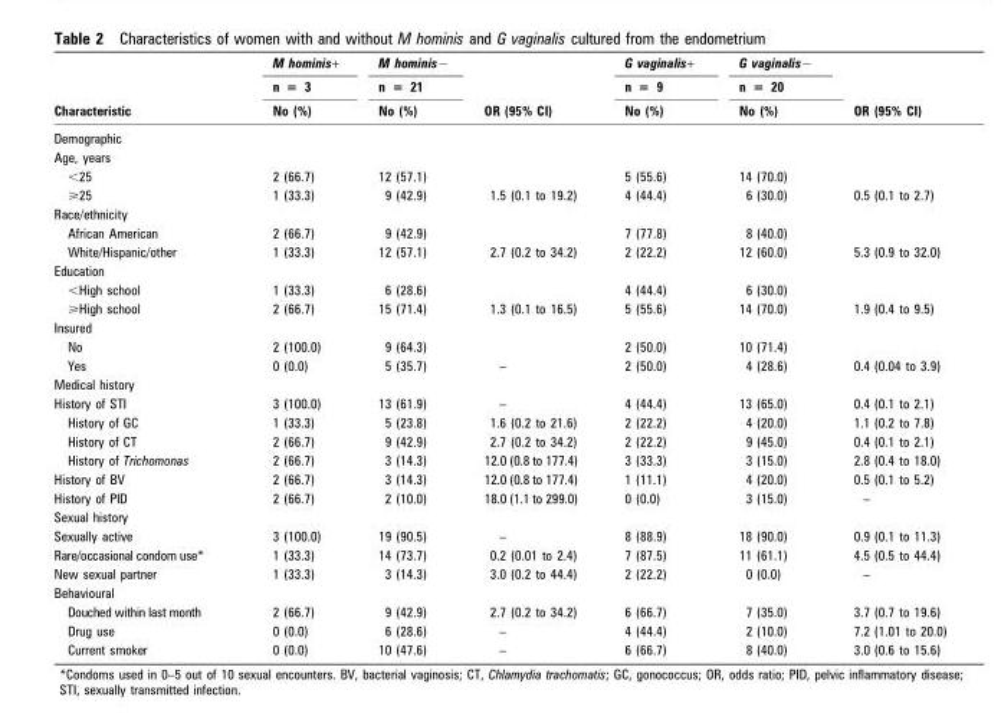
<table><thead><tr><td rowspan="3">Characteristic</td><td rowspan="3">M hominis+ n = 3 No (%)</td><td rowspan="3">M hominis− n = 21 No (%)</td><td rowspan="3">OR (95% CI)</td><td rowspan="3">G vaginalis+ n = 9 No (%)</td><td rowspan="3">G vaginalis− n = 20 No (%)</td><td rowspan="3">OR (95% CI)</td></tr><tr></tr><tr></tr></thead><tbody><tr><td colspan="7">Demographic</td></tr><tr><td colspan="7">Age, years</td></tr><tr><td>&lt;25</td><td>2 (66.7)</td><td>12 (57.1)</td><td></td><td>5 (55.6)</td><td>14 (70.0)</td><td></td></tr><tr><td>&gt;25</td><td>1 (33.3)</td><td>9 (42.9)</td><td>1.5 (0.1 to 19.2)</td><td>4 (44.4)</td><td>6 (30.0)</td><td>0.5 (0.1 to 2.7)</td></tr><tr><td colspan="7">Race/ethnicity</td></tr><tr><td>African American</td><td>2 (66.7)</td><td>9 (42.9)</td><td></td><td>7 (77.8)</td><td>8 (40.0)</td><td></td></tr><tr><td>White/Hispanic/other</td><td>1 (33.3)</td><td>12 (57.1)</td><td>2.7 (0.2 to 34.2)</td><td>2 (22.2)</td><td>12 (60.0)</td><td>5.3 (0.9 to 32.0)</td></tr><tr><td colspan="7">Education</td></tr><tr><td>&lt;High school</td><td>1 (33.3)</td><td>6 (28.6)</td><td></td><td>4 (44.4)</td><td>6 (30.0)</td><td></td></tr><tr><td>&gt;High school</td><td>2 (66.7)</td><td>15 (71.4)</td><td>1.3 (0.1 to 16.5)</td><td>5 (55.6)</td><td>14 (70.0)</td><td>1.9 (0.4 to 9.5)</td></tr><tr><td colspan="7">Insured</td></tr><tr><td>No</td><td>2 (100.0)</td><td>9 (64.3)</td><td></td><td>2 (50.0)</td><td>10 (71.4)</td><td></td></tr><tr><td>Yes</td><td>0 (0.0)</td><td>5 (35.7)</td><td>–</td><td>2 (50.0)</td><td>4 (28.6)</td><td>0.4 (0.04 to 3.9)</td></tr><tr><td colspan="7">Medical history</td></tr><tr><td>History of STI</td><td>3 (100.0)</td><td>13 (61.9)</td><td>–</td><td>4 (44.4)</td><td>13 (65.0)</td><td>0.4 (0.1 to 2.1)</td></tr><tr><td>History of GC</td><td>1 (33.3)</td><td>5 (23.8)</td><td>1.6 (0.2 to 21.6)</td><td>2 (22.2)</td><td>4 (20.0)</td><td>1.1 (0.2 to 7.8)</td></tr><tr><td>History of CT</td><td>2 (66.7)</td><td>9 (42.9)</td><td>2.7 (0.2 to 34.2)</td><td>2 (22.2)</td><td>9 (45.0)</td><td>0.4 (0.1 to 2.1)</td></tr><tr><td>History of Trichomonas</td><td>2 (66.7)</td><td>3 (14.3)</td><td>12.0 (0.8 to 177.4)</td><td>3 (33.3)</td><td>3 (15.0)</td><td>2.8 (0.4 to 18.0)</td></tr><tr><td>History of BV</td><td>2 (66.7)</td><td>3 (14.3)</td><td>12.0 (0.8 to 177.4)</td><td>1 (11.1)</td><td>4 (20.0)</td><td>0.5 (0.1 to 5.2)</td></tr><tr><td>History of PID</td><td>2 (66.7)</td><td>2 (10.0)</td><td>18.0 (1.1 to 299.0)</td><td>0 (0.0)</td><td>3 (15.0)</td><td>–</td></tr><tr><td colspan="7">Sexual history</td></tr><tr><td>Sexually active</td><td>3 (100.0)</td><td>19 (90.5)</td><td>–</td><td>8 (88.9)</td><td>18 (90.0)</td><td>0.9 (0.1 to 11.3)</td></tr><tr><td>Rare/occasional condom use*</td><td>1 (33.3)</td><td>14 (73.7)</td><td>0.2 (0.01 to 2.4)</td><td>7 (87.5)</td><td>11 (61.1)</td><td>4.5 (0.5 to 44.4)</td></tr><tr><td>New sexual partner</td><td>1 (33.3)</td><td>3 (14.3)</td><td>3.0 (0.2 to 44.4)</td><td>2 (22.2)</td><td>0 (0.0)</td><td>–</td></tr><tr><td colspan="7">Behavioural</td></tr><tr><td>Douched within last month</td><td>2 (66.7)</td><td>9 (42.9)</td><td>2.7 (0.2 to 34.2)</td><td>6 (66.7)</td><td>7 (35.0)</td><td>3.7 (0.7 to 19.6)</td></tr><tr><td>Drug use</td><td>0 (0.0)</td><td>6 (28.6)</td><td>–</td><td>4 (44.4)</td><td>2 (10.0)</td><td>7.2 (1.01 to 20.0)</td></tr><tr><td>Current smoker</td><td>0 (0.0)</td><td>10 (47.6)</td><td>–</td><td>6 (66.7)</td><td>8 (40.0)</td><td>3.0 (0.6 to 15.6)</td></tr></tbody></table>